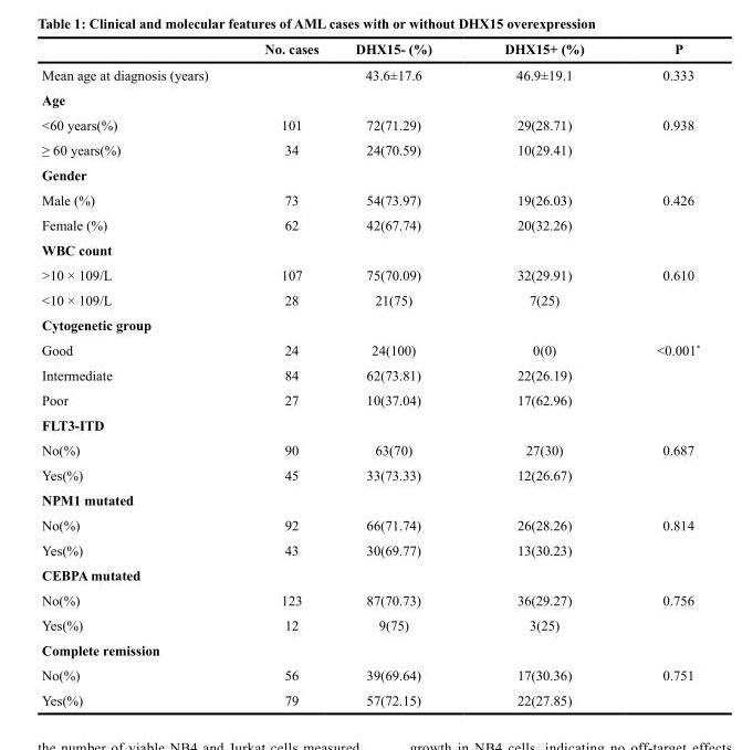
<table><thead><tr><td></td><td>No. cases</td><td>DHX15- (%)</td><td>DHX15+ (%)</td><td>P</td></tr></thead><tbody><tr><td>Mean age at diagnosis (years)</td><td></td><td>43.6±17.6</td><td>46.9±19.1</td><td>0.333</td></tr><tr><td colspan="5">Age</td></tr><tr><td>&lt;60 years(%)</td><td>101</td><td>72(71.29)</td><td>29(28.71)</td><td>0.938</td></tr><tr><td>≥ 60 years(%)</td><td>34</td><td>24(70.59)</td><td>10(29.41)</td><td></td></tr><tr><td colspan="5">Gender</td></tr><tr><td>Male (%)</td><td>73</td><td>54(73.97)</td><td>19(26.03)</td><td>0.426</td></tr><tr><td>Female (%)</td><td>62</td><td>42(67.74)</td><td>20(32.26)</td><td></td></tr><tr><td colspan="5">WBC count</td></tr><tr><td>&gt;10 × 109/L</td><td>107</td><td>75(70.09)</td><td>32(29.91)</td><td>0.610</td></tr><tr><td>&lt;10 × 109/L</td><td>28</td><td>21(75)</td><td>7(25)</td><td></td></tr><tr><td colspan="5">Cytogenetic group</td></tr><tr><td>Good</td><td>24</td><td>24(100)</td><td>0(0)</td><td>&lt;0.001*</td></tr><tr><td>Intermediate</td><td>84</td><td>62(73.81)</td><td>22(26.19)</td><td></td></tr><tr><td>Poor</td><td>27</td><td>10(37.04)</td><td>17(62.96)</td><td></td></tr><tr><td colspan="5">FLT3-ITD</td></tr><tr><td>No(%)</td><td>90</td><td>63(70)</td><td>27(30)</td><td>0.687</td></tr><tr><td>Yes(%)</td><td>45</td><td>33(73.33)</td><td>12(26.67)</td><td></td></tr><tr><td colspan="5">NPM1 mutated</td></tr><tr><td>No(%)</td><td>92</td><td>66(71.74)</td><td>26(28.26)</td><td>0.814</td></tr><tr><td>Yes(%)</td><td>43</td><td>30(69.77)</td><td>13(30.23)</td><td></td></tr><tr><td colspan="5">CEBPA mutated</td></tr><tr><td>No(%)</td><td>123</td><td>87(70.73)</td><td>36(29.27)</td><td>0.756</td></tr><tr><td>Yes(%)</td><td>12</td><td>9(75)</td><td>3(25)</td><td></td></tr><tr><td colspan="5">Complete remission</td></tr><tr><td>No(%)</td><td>56</td><td>39(69.64)</td><td>17(30.36)</td><td>0.751</td></tr><tr><td>Yes(%)</td><td>79</td><td>57(72.15)</td><td>22(27.85)</td><td></td></tr></tbody></table>